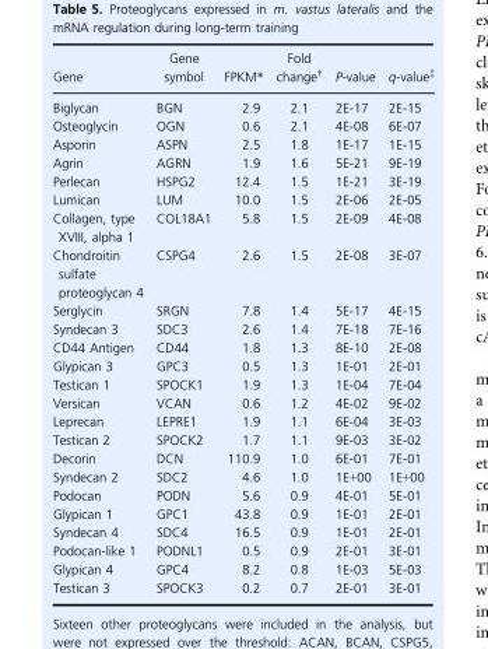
<table><thead><tr><td>Gene</td><td>Gene symbol</td><td>FPKM*</td><td>Fold change†</td><td>P-value</td><td>q-value‡</td></tr></thead><tbody><tr><td>Biglycan</td><td>BGN</td><td>2.9</td><td>2.1</td><td>2E-17</td><td>2E-15</td></tr><tr><td>Osteoglycin</td><td>OGN</td><td>0.6</td><td>2.1</td><td>4E-08</td><td>6E-07</td></tr><tr><td>Asporin</td><td>ASPN</td><td>2.5</td><td>1.8</td><td>1E-17</td><td>1E-15</td></tr><tr><td>Agrin</td><td>AGRN</td><td>1.9</td><td>1.6</td><td>5E-21</td><td>9E-19</td></tr><tr><td>Perlecan</td><td>HSPG2</td><td>12.4</td><td>1.5</td><td>1E-21</td><td>3E-19</td></tr><tr><td>Lumican</td><td>LUM</td><td>10.0</td><td>1.5</td><td>2E-06</td><td>2E-05</td></tr><tr><td>Collagen, type XVIII, alpha 1</td><td>COL18A1</td><td>5.8</td><td>1.5</td><td>2E-09</td><td>4E-08</td></tr><tr><td>Chondroitin sulfate proteoglycan 4</td><td>CSPG4</td><td>2.6</td><td>1.5</td><td>2E-08</td><td>3E-07</td></tr><tr><td>Serglycin</td><td>SRGN</td><td>7.8</td><td>1.4</td><td>5E-17</td><td>4E-15</td></tr><tr><td>Syndecan 3</td><td>SDC3</td><td>2.6</td><td>1.4</td><td>7E-18</td><td>7E-16</td></tr><tr><td>CD44 Antigen</td><td>CD44</td><td>1.8</td><td>1.3</td><td>8E-10</td><td>2E-08</td></tr><tr><td>Glypican 3</td><td>GPC3</td><td>0.5</td><td>1.3</td><td>1E-01</td><td>2E-01</td></tr><tr><td>Testican 1</td><td>SPOCK1</td><td>1.9</td><td>1.3</td><td>1E-04</td><td>7E-04</td></tr><tr><td>Versican</td><td>VCAN</td><td>0.6</td><td>1.2</td><td>4E-02</td><td>9E-02</td></tr><tr><td>Leprecan</td><td>LEPRE1</td><td>1.9</td><td>1.1</td><td>6E-04</td><td>3E-03</td></tr><tr><td>Testican 2</td><td>SPOCK2</td><td>1.7</td><td>1.1</td><td>9E-03</td><td>3E-02</td></tr><tr><td>Decorin</td><td>DCN</td><td>110.9</td><td>1.0</td><td>6E-01</td><td>7E-01</td></tr><tr><td>Syndecan 2</td><td>SDC2</td><td>4.6</td><td>1.0</td><td>1E+00</td><td>1E+00</td></tr><tr><td>Podocan</td><td>PODN</td><td>5.6</td><td>0.9</td><td>4E-01</td><td>5E-01</td></tr><tr><td>Glypican 1</td><td>GPC1</td><td>43.8</td><td>0.9</td><td>1E-01</td><td>2E-01</td></tr><tr><td>Syndecan 4</td><td>SDC4</td><td>16.5</td><td>0.9</td><td>1E-01</td><td>2E-01</td></tr><tr><td>Podocan-like 1</td><td>PODNL1</td><td>0.5</td><td>0.9</td><td>2E-01</td><td>3E-01</td></tr><tr><td>Glypican 4</td><td>GPC4</td><td>8.2</td><td>0.8</td><td>1E-03</td><td>5E-03</td></tr><tr><td>Testican 3</td><td>SPOCK3</td><td>0.2</td><td>0.7</td><td>2E-01</td><td>3E-01</td></tr></tbody></table>